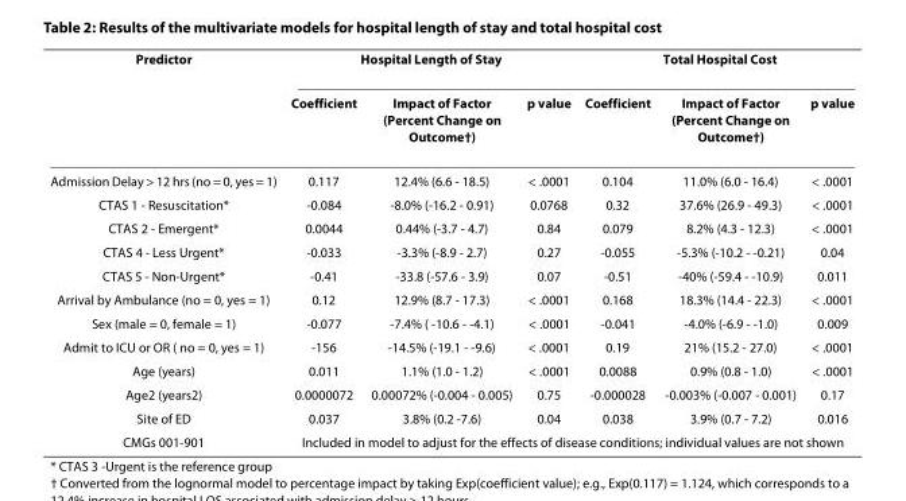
<table><thead><tr><td rowspan="2">Predictor</td><td colspan="3">Hospital Length of Stay</td><td colspan="3">Total Hospital Cost</td></tr><tr><td>Coefficient</td><td>Impact of Factor (Percent Change on Outcome†)</td><td>p value</td><td>Coefficient</td><td>Impact of Factor (Percent Change on Outcome†)</td><td>p value</td></tr></thead><tbody><tr><td>Admission Delay &gt; 12 hrs (no = 0, yes = 1)</td><td>0.117</td><td>12.4% (6.6 - 18.5)</td><td>&lt; .0001</td><td>0.104</td><td>11.0% (6.0 - 16.4)</td><td>&lt; .0001</td></tr><tr><td>CTAS 1 - Resuscitation*</td><td>-0.084</td><td>-8.0% (-16.2 - 0.91)</td><td>0.0768</td><td>0.32</td><td>37.6% (26.9 - 49.3)</td><td>&lt; .0001</td></tr><tr><td>CTAS 2 - Emergent*</td><td>0.0044</td><td>0.44% (-3.7 - 4.7)</td><td>0.84</td><td>0.079</td><td>8.2% (4.3 - 12.3)</td><td>&lt; .0001</td></tr><tr><td>CTAS 4 - Less Urgent*</td><td>-0.033</td><td>-3.3% (-8.9 - 2.7)</td><td>0.27</td><td>-0.055</td><td>-5.3% (-10.2 - -0.21)</td><td>0.04</td></tr><tr><td>CTAS 5 - Non-Urgent*</td><td>-0.41</td><td>-33.8 (-57.6 - 3.9)</td><td>0.07</td><td>-0.51</td><td>-40% (-59.4 - -10.9)</td><td>0.011</td></tr><tr><td>Arrival by Ambulance (no = 0, yes = 1)</td><td>0.12</td><td>12.9% (8.7 - 17.3)</td><td>&lt; .0001</td><td>0.168</td><td>18.3% (14.4 - 22.3)</td><td>&lt; .0001</td></tr><tr><td>Sex (male = 0, female = 1)</td><td>-0.077</td><td>-7.4% ( -10.6 - -4.1)</td><td>&lt; .0001</td><td>-0.041</td><td>-4.0% (-6.9 - -1.0)</td><td>0.009</td></tr><tr><td>Admit to ICU or OR ( no = 0, yes = 1)</td><td>-156</td><td>-14.5% (-19.1 - -9.6)</td><td>&lt; .0001</td><td>0.19</td><td>21% (15.2 - 27.0)</td><td>&lt; .0001</td></tr><tr><td>Age (years)</td><td>0.011</td><td>1.1% (1.0 - 1.2)</td><td>&lt; .0001</td><td>0.0088</td><td>0.9% (0.8 - 1.0)</td><td>&lt; .0001</td></tr><tr><td>Age2 (years2)</td><td>0.0000072</td><td>0.00072% (-0.004 - 0.005)</td><td>0.75</td><td>-0.000028</td><td>-0.003% (-0.007 - 0.001)</td><td>0.17</td></tr><tr><td>Site of ED</td><td>0.037</td><td>3.8% (0.2 -7.6)</td><td>0.04</td><td>0.038</td><td>3.9% (0.7 - 7.2)</td><td>0.016</td></tr><tr><td>CMGs 001-901</td><td colspan="6">Included in model to adjust for the effects of disease conditions; individual values are not shown</td></tr></tbody></table>